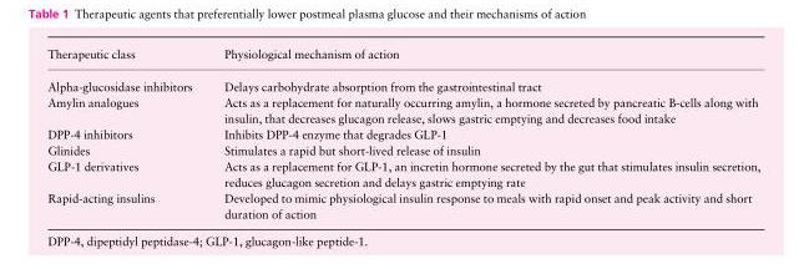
<table><thead><tr><td>Therapeutic class</td><td>Physiological mechanism of action</td></tr></thead><tbody><tr><td>Alpha-glucosidase inhibitors</td><td>Delays carbohydrate absorption from the gastrointestinal tract</td></tr><tr><td>Amylin analogues</td><td>Acts as a replacement for naturally occurring amylin, a hormone secreted by pancreatic B-cells along with insulin, that decreases glucagon release, slows gastric emptying and decreases food intake</td></tr><tr><td>DPP-4 inhibitors</td><td>Inhibits DPP-4 enzyme that degrades GLP-1</td></tr><tr><td>Glinides</td><td>Stimulates a rapid but short-lived release of insulin</td></tr><tr><td>GLP-1 derivatives</td><td>Acts as a replacement for GLP-1, an incretin hormone secreted by the gut that stimulates insulin secretion, reduces glucagon secretion and delays gastric emptying rate</td></tr><tr><td>Rapid-acting insulins</td><td>Developed to mimic physiological insulin response to meals with rapid onset and peak activity and short duration of action</td></tr></tbody></table>